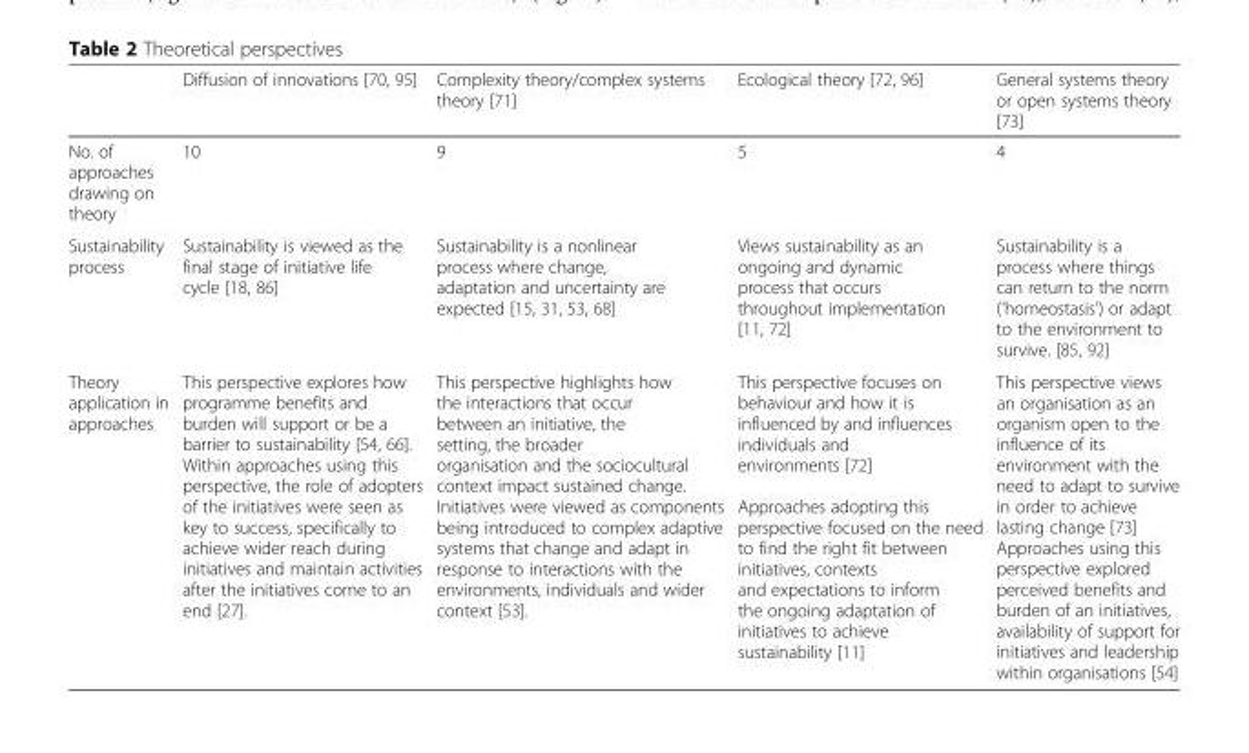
<table><thead><tr><td></td><td>Diffusion of innovations [70, 95]</td><td>Complexity theory/complex systems theory [71]</td><td>Ecological theory [72, 96]</td><td>General systems theory or open systems theory [73]</td></tr></thead><tbody><tr><td>No. of approaches drawing on theory</td><td>10</td><td>9</td><td>5</td><td>4</td></tr><tr><td>Sustainability process</td><td>Sustainability is viewed as the final stage of initiative life cycle [18, 86]</td><td>Sustainability is a nonlinear process where change, adaptation and uncertainty are expected [15, 31, 53, 68]</td><td>Views sustainability as an ongoing and dynamic process that occurs throughout implementation [11, 72]</td><td>Sustainability is a process where things can return to the norm (‘homeostasis’) or adapt to the environment to survive. [85, 92]</td></tr><tr><td>Theory application in approaches</td><td>This perspective explores how programme benefits and burden will support or be a barrier to sustainability [54, 66]. Within approaches using this perspective, the role of adopters of the initiatives were seen as key to success, specifically to achieve wider reach during initiatives and maintain activities after the initiatives come to an end [27].</td><td>This perspective highlights how the interactions that occur between an initiative, the setting, the broader organisation and the sociocultural context impact sustained change. Initiatives were viewed as components being introduced to complex adaptive systems that change and adapt in response to interactions with the environments, individuals and wider context [53].</td><td>This perspective focuses on behaviour and how it is influenced by and influences individuals and environments [72] Approaches adopting this perspective focused on the need to find the right fit between initiatives, contexts and expectations to inform the ongoing adaptation of initiatives to achieve sustainability [11]</td><td>This perspective views an organisation as an organism open to the influence of its environment with the need to adapt to survive in order to achieve lasting change [73] Approaches using this perspective explored perceived benefits and burden of an initiatives, availability of support for initiatives and leadership within organisations [54]</td></tr></tbody></table>